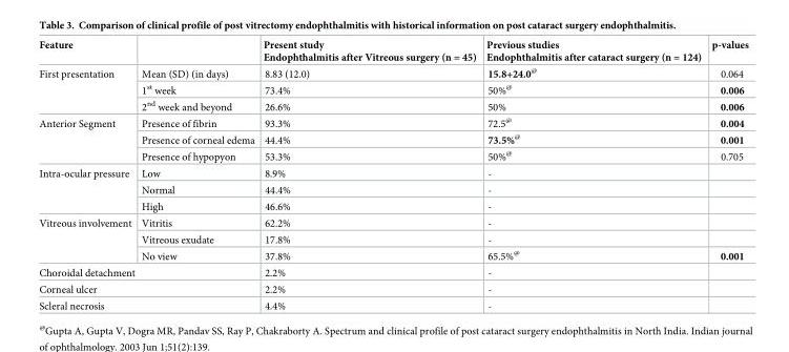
<table><thead><tr><td>Feature</td><td></td><td>Present study Endophthalmitis after Vitreous surgery (n = 45)</td><td>Previous studies Endophthalmitis after cataract surgery (n = 124)</td><td>p-values</td></tr></thead><tbody><tr><td rowspan="3">First presentation</td><td>Mean (SD) (in days)</td><td>8.83 (12.0)</td><td>15.8+24.0<sup>@</sup></td><td>0.064</td></tr><tr><td>1<sup>st</sup> week</td><td>73.4%</td><td>50%<sup>@</sup></td><td>0.006</td></tr><tr><td>2<sup>nd</sup> week and beyond</td><td>26.6%</td><td>50%</td><td>0.006</td></tr><tr><td rowspan="3">Anterior Segment</td><td>Presence of fibrin</td><td>93.3%</td><td>72.5<sup>@</sup></td><td>0.004</td></tr><tr><td>Presence of corneal edema</td><td>44.4%</td><td>73.5%<sup>@</sup></td><td>0.001</td></tr><tr><td>Presence of hypopyon</td><td>53.3%</td><td>50%<sup>@</sup></td><td>0.705</td></tr><tr><td rowspan="3">Intra-ocular pressure</td><td>Low</td><td>8.9%</td><td>-</td><td></td></tr><tr><td>Normal</td><td>44.4%</td><td>-</td><td></td></tr><tr><td>High</td><td>46.6%</td><td>-</td><td></td></tr><tr><td rowspan="3">Vitreous involvement</td><td>Vitritis</td><td>62.2%</td><td>-</td><td></td></tr><tr><td>Vitreous exudate</td><td>17.8%</td><td>-</td><td></td></tr><tr><td>No view</td><td>37.8%</td><td>65.5%<sup>@</sup></td><td>0.001</td></tr><tr><td colspan="2">Choroidal detachment</td><td>2.2%</td><td>-</td><td></td></tr><tr><td colspan="2">Corneal ulcer</td><td>2.2%</td><td>-</td><td></td></tr><tr><td colspan="2">Scleral necrosis</td><td>4.4%</td><td>-</td><td></td></tr></tbody></table>